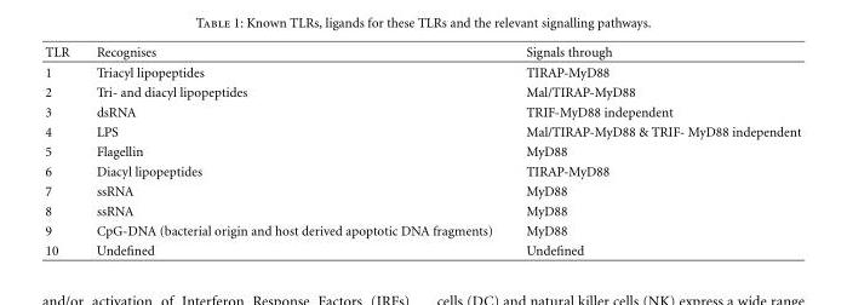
<table><thead><tr><td>TLR</td><td>Recognises</td><td>Signals through</td></tr></thead><tbody><tr><td>1</td><td>Triacyl lipopeptides</td><td>TIRAP-MyD88</td></tr><tr><td>2</td><td>Tri- and diacyl lipopeptides</td><td>Mal/TIRAP-MyD88</td></tr><tr><td>3</td><td>dsRNA</td><td>TRIF-MyD88 independent</td></tr><tr><td>4</td><td>LPS</td><td>Mal/TIRAP-MyD88 &amp; TRIF- MyD88 independent</td></tr><tr><td>5</td><td>Flagellin</td><td>MyD88</td></tr><tr><td>6</td><td>Diacyl lipopeptides</td><td>TIRAP-MyD88</td></tr><tr><td>7</td><td>ssRNA</td><td>MyD88</td></tr><tr><td>8</td><td>ssRNA</td><td>MyD88</td></tr><tr><td>9</td><td>CpG-DNA (bacterial origin and host derived apoptotic DNA fragments)</td><td>MyD88</td></tr><tr><td>10</td><td>Undefined</td><td>Undefined</td></tr></tbody></table>